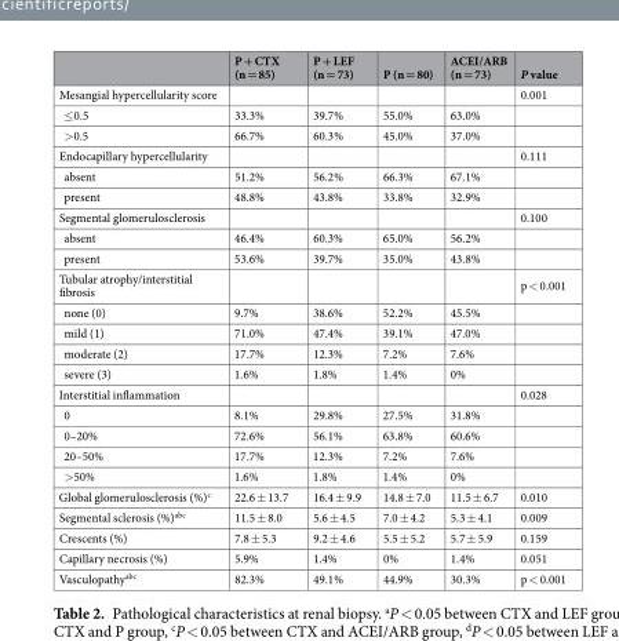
<table><thead><tr><td></td><td>P + CTX (n = 85)</td><td>P + LEF (n = 73)</td><td>P (n = 80)</td><td>ACEI/ARB (n = 73)</td><td>P value</td></tr></thead><tbody><tr><td>Mesangial hypercellularity score</td><td></td><td></td><td></td><td></td><td>0.001</td></tr><tr><td>≤0.5</td><td>33.3%</td><td>39.7%</td><td>55.0%</td><td>63.0%</td><td></td></tr><tr><td>&gt;0.5</td><td>66.7%</td><td>60.3%</td><td>45.0%</td><td>37.0%</td><td></td></tr><tr><td>Endocapillary hypercellularity</td><td></td><td></td><td></td><td></td><td>0.111</td></tr><tr><td>absent</td><td>51.2%</td><td>56.2%</td><td>66.3%</td><td>67.1%</td><td></td></tr><tr><td>present</td><td>48.8%</td><td>43.8%</td><td>33.8%</td><td>32.9%</td><td></td></tr><tr><td>Segmental glomerulosclerosis</td><td></td><td></td><td></td><td></td><td>0.100</td></tr><tr><td>absent</td><td>46.4%</td><td>60.3%</td><td>65.0%</td><td>56.2%</td><td></td></tr><tr><td>present</td><td>53.6%</td><td>39.7%</td><td>35.0%</td><td>43.8%</td><td></td></tr><tr><td>Tubular atrophy/interstitial fibrosis</td><td></td><td></td><td></td><td></td><td>p &lt; 0.001</td></tr><tr><td>none (0)</td><td>9.7%</td><td>38.6%</td><td>52.2%</td><td>45.5%</td><td></td></tr><tr><td>mild (1)</td><td>71.0%</td><td>47.4%</td><td>39.1%</td><td>47.0%</td><td></td></tr><tr><td>moderate (2)</td><td>17.7%</td><td>12.3%</td><td>7.2%</td><td>7.6%</td><td></td></tr><tr><td>severe (3)</td><td>1.6%</td><td>1.8%</td><td>1.4%</td><td>0%</td><td></td></tr><tr><td>Interstitial inflammation</td><td></td><td></td><td></td><td></td><td>0.028</td></tr><tr><td>0</td><td>8.1%</td><td>29.8%</td><td>27.5%</td><td>31.8%</td><td></td></tr><tr><td>0–20%</td><td>72.6%</td><td>56.1%</td><td>63.8%</td><td>60.6%</td><td></td></tr><tr><td>20–50%</td><td>17.7%</td><td>12.3%</td><td>7.2%</td><td>7.6%</td><td></td></tr><tr><td>&gt;50%</td><td>1.6%</td><td>1.8%</td><td>1.4%</td><td>0%</td><td></td></tr><tr><td>Global glomerulosclerosis (%)<sup>c</sup></td><td>22.6 ± 13.7</td><td>16.4 ± 9.9</td><td>14.8 ± 7.0</td><td>11.5 ± 6.7</td><td>0.010</td></tr><tr><td>Segmental sclerosis (%)<sup>abc</sup></td><td>11.5 ± 8.0</td><td>5.6 ± 4.5</td><td>7.0 ± 4.2</td><td>5.3 ± 4.1</td><td>0.009</td></tr><tr><td>Crescents (%)</td><td>7.8 ± 5.3</td><td>9.2 ± 4.6</td><td>5.5 ± 5.2</td><td>5.7 ± 5.9</td><td>0.159</td></tr><tr><td>Capillary necrosis (%)</td><td>5.9%</td><td>1.4%</td><td>0%</td><td>1.4%</td><td>0.051</td></tr><tr><td>Vasculopathy<sup>abc</sup></td><td>82.3%</td><td>49.1%</td><td>44.9%</td><td>30.3%</td><td>p &lt; 0.001</td></tr></tbody></table>